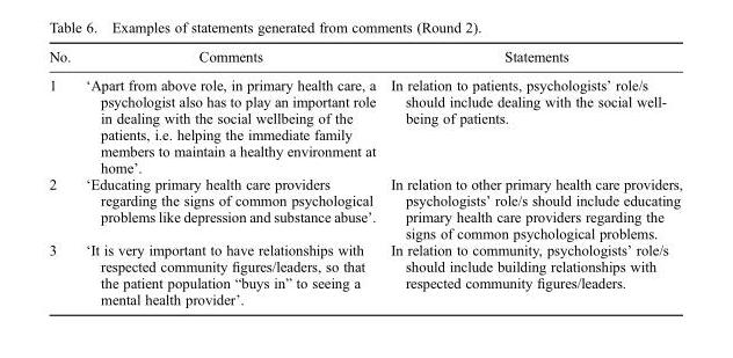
<table><thead><tr><td>No.</td><td>Comments</td><td>Statements</td></tr></thead><tbody><tr><td>1</td><td>‘Apart from above role, in primary health care, a psychologist also has to play an important role in dealing with the social wellbeing of the patients, i.e. helping the immediate family members to maintain a healthy environment at home’.</td><td>In relation to patients, psychologists’ role/s should include dealing with the social well- being of patients.</td></tr><tr><td>2</td><td>‘Educating primary health care providers regarding the signs of common psychological problems like depression and substance abuse’.</td><td>In relation to other primary health care providers, psychologists’ role/s should include educating primary health care providers regarding the signs of common psychological problems.</td></tr><tr><td>3</td><td>‘It is very important to have relationships with respected community figures/leaders, so that the patient population “buys in” to seeing a mental health provider’.</td><td>In relation to community, psychologists’ role/s should include building relationships with respected community figures/leaders.</td></tr></tbody></table>